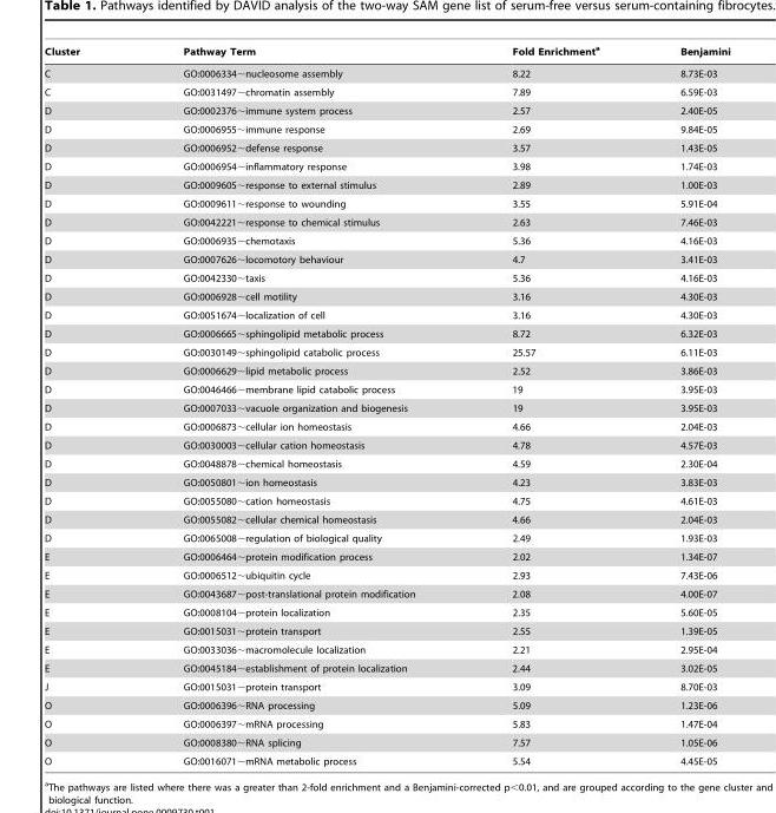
<table><thead><tr><td>Cluster</td><td>Pathway Term</td><td>Fold Enrichment<sup>a</sup></td><td>Benjamini</td></tr></thead><tbody><tr><td>C</td><td>GO:0006334∼nucleosome assembly</td><td>8.22</td><td>8.73E-03</td></tr><tr><td>C</td><td>GO:0031497∼chromatin assembly</td><td>7.89</td><td>6.59E-03</td></tr><tr><td>D</td><td>GO:0002376∼immune system process</td><td>2.57</td><td>2.40E-05</td></tr><tr><td>D</td><td>GO:0006955∼immune response</td><td>2.69</td><td>9.84E-05</td></tr><tr><td>D</td><td>GO:0006952∼defense response</td><td>3.57</td><td>1.43E-05</td></tr><tr><td>D</td><td>GO:0006954∼inflammatory response</td><td>3.98</td><td>1.74E-03</td></tr><tr><td>D</td><td>GO:0009605∼response to external stimulus</td><td>2.89</td><td>1.00E-03</td></tr><tr><td>D</td><td>GO:0009611∼response to wounding</td><td>3.55</td><td>5.91E-04</td></tr><tr><td>D</td><td>GO:0042221∼response to chemical stimulus</td><td>2.63</td><td>7.46E-03</td></tr><tr><td>D</td><td>GO:0006935∼chemotaxis</td><td>5.36</td><td>4.16E-03</td></tr><tr><td>D</td><td>GO:0007626∼locomotory behaviour</td><td>4.7</td><td>3.41E-03</td></tr><tr><td>D</td><td>GO:0042330∼taxis</td><td>5.36</td><td>4.16E-03</td></tr><tr><td>D</td><td>GO:0006928∼cell motility</td><td>3.16</td><td>4.30E-03</td></tr><tr><td>D</td><td>GO:0051674∼localization of cell</td><td>3.16</td><td>4.30E-03</td></tr><tr><td>D</td><td>GO:0006665∼sphingolipid metabolic process</td><td>8.72</td><td>6.32E-03</td></tr><tr><td>D</td><td>GO:0030149∼sphingolipid catabolic process</td><td>25.57</td><td>6.11E-03</td></tr><tr><td>D</td><td>GO:0006629∼lipid metabolic process</td><td>2.52</td><td>3.86E-03</td></tr><tr><td>D</td><td>GO:0046466∼membrane lipid catabolic process</td><td>19</td><td>3.95E-03</td></tr><tr><td>D</td><td>GO:0007033∼vacuole organization and biogenesis</td><td>19</td><td>3.95E-03</td></tr><tr><td>D</td><td>GO:0006873∼cellular ion homeostasis</td><td>4.66</td><td>2.04E-03</td></tr><tr><td>D</td><td>GO:0030003∼cellular cation homeostasis</td><td>4.78</td><td>4.57E-03</td></tr><tr><td>D</td><td>GO:0048878∼chemical homeostasis</td><td>4.59</td><td>2.30E-04</td></tr><tr><td>D</td><td>GO:0050801∼ion homeostasis</td><td>4.23</td><td>3.83E-03</td></tr><tr><td>D</td><td>GO:0055080∼cation homeostasis</td><td>4.75</td><td>4.61E-03</td></tr><tr><td>D</td><td>GO:0055082∼cellular chemical homeostasis</td><td>4.66</td><td>2.04E-03</td></tr><tr><td>D</td><td>GO:0065008∼regulation of biological quality</td><td>2.49</td><td>1.93E-03</td></tr><tr><td>E</td><td>GO:0006464∼protein modification process</td><td>2.02</td><td>1.34E-07</td></tr><tr><td>E</td><td>GO:0006512∼ubiquitin cycle</td><td>2.93</td><td>7.43E-06</td></tr><tr><td>E</td><td>GO:0043687∼post-translational protein modification</td><td>2.08</td><td>4.00E-07</td></tr><tr><td>E</td><td>GO:0008104∼protein localization</td><td>2.35</td><td>5.60E-05</td></tr><tr><td>E</td><td>GO:0015031∼protein transport</td><td>2.55</td><td>1.39E-05</td></tr><tr><td>E</td><td>GO:0033036∼macromolecule localization</td><td>2.21</td><td>2.95E-04</td></tr><tr><td>E</td><td>GO:0045184∼establishment of protein localization</td><td>2.44</td><td>3.02E-05</td></tr><tr><td>J</td><td>GO:0015031∼protein transport</td><td>3.09</td><td>8.70E-03</td></tr><tr><td>O</td><td>GO:0006396∼RNA processing</td><td>5.09</td><td>1.23E-06</td></tr><tr><td>O</td><td>GO:0006397∼mRNA processing</td><td>5.83</td><td>1.47E-04</td></tr><tr><td>O</td><td>GO:0008380∼RNA splicing</td><td>7.57</td><td>1.05E-06</td></tr><tr><td>O</td><td>GO:0016071∼mRNA metabolic process</td><td>5.54</td><td>4.45E-05</td></tr></tbody></table>